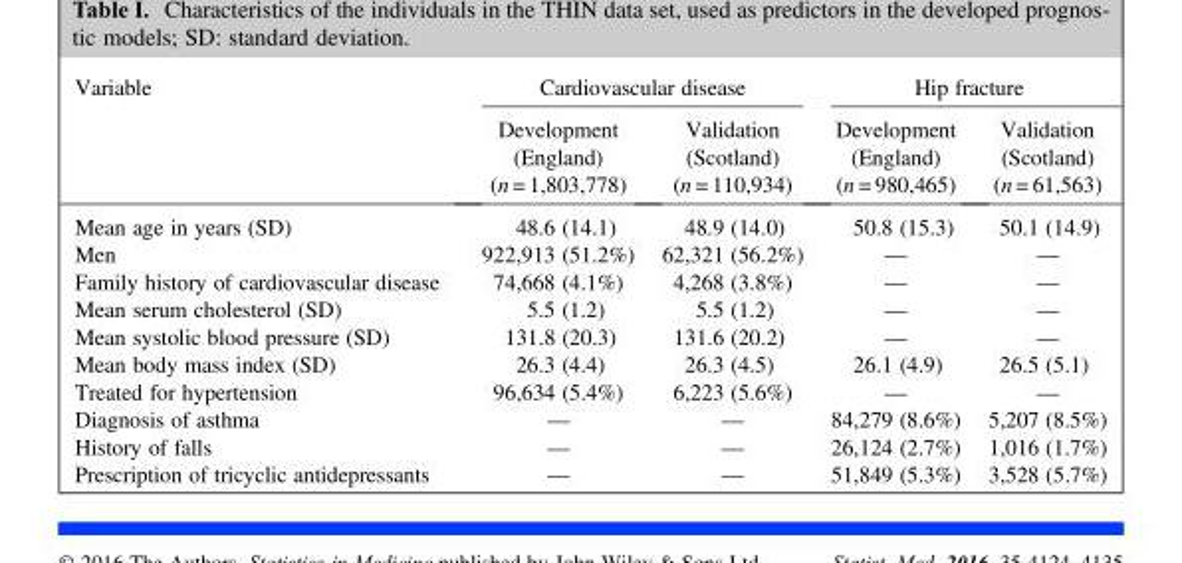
<table><thead><tr><td rowspan="2">Variable</td><td colspan="2">Cardiovascular disease</td><td colspan="2">Hip fracture</td></tr><tr><td>Development (England) (n = 1,803,778)</td><td>Validation (Scotland) (n = 110,934)</td><td>Development (England) (n = 980,465)</td><td>Validation (Scotland) (n = 61,563)</td></tr></thead><tbody><tr><td>Mean age in years (SD)</td><td>48.6 (14.1)</td><td>48.9 (14.0)</td><td>50.8 (15.3)</td><td>50.1 (14.9)</td></tr><tr><td>Men</td><td>922,913 (51.2%)</td><td>62,321 (56.2%)</td><td>—</td><td>—</td></tr><tr><td>Family history of cardiovascular disease</td><td>74,668 (4.1%)</td><td>4,268 (3.8%)</td><td>—</td><td>—</td></tr><tr><td>Mean serum cholesterol (SD)</td><td>5.5 (1.2)</td><td>5.5 (1.2)</td><td>—</td><td>—</td></tr><tr><td>Mean systolic blood pressure (SD)</td><td>131.8 (20.3)</td><td>131.6 (20.2)</td><td>—</td><td>—</td></tr><tr><td>Mean body mass index (SD)</td><td>26.3 (4.4)</td><td>26.3 (4.5)</td><td>26.1 (4.9)</td><td>26.5 (5.1)</td></tr><tr><td>Treated for hypertension</td><td>96,634 (5.4%)</td><td>6,223 (5.6%)</td><td>—</td><td>—</td></tr><tr><td>Diagnosis of asthma</td><td>—</td><td>—</td><td>84,279 (8.6%)</td><td>5,207 (8.5%)</td></tr><tr><td>History of falls</td><td>—</td><td>—</td><td>26,124 (2.7%)</td><td>1,016 (1.7%)</td></tr><tr><td>Prescription of tricyclic antidepressants</td><td>—</td><td>—</td><td>51,849 (5.3%)</td><td>3,528 (5.7%)</td></tr></tbody></table>